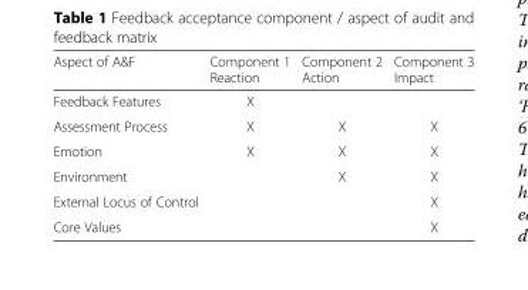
<table><thead><tr><td>Aspect of A&amp;F</td><td>Component 1 Reaction</td><td>Component 2 Action</td><td>Component 3 Impact</td></tr></thead><tbody><tr><td>Feedback Features</td><td>X</td><td></td><td></td></tr><tr><td>Assessment Process</td><td>X</td><td>X</td><td>X</td></tr><tr><td>Emotion</td><td>X</td><td>X</td><td>X</td></tr><tr><td>Environment</td><td></td><td>X</td><td>X</td></tr><tr><td>External Locus of Control</td><td></td><td></td><td>X</td></tr><tr><td>Core Values</td><td></td><td></td><td>X</td></tr></tbody></table>